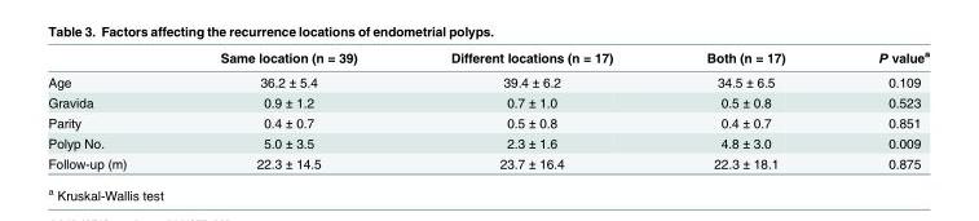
<table><thead><tr><td></td><td>Same location (n = 39)</td><td>Different locations (n = 17)</td><td>Both (n = 17)</td><td>P value<sup>a</sup></td></tr></thead><tbody><tr><td>Age</td><td>36.2 ± 5.4</td><td>39.4 ± 6.2</td><td>34.5 ± 6.5</td><td>0.109</td></tr><tr><td>Gravida</td><td>0.9 ± 1.2</td><td>0.7 ± 1.0</td><td>0.5 ± 0.8</td><td>0.523</td></tr><tr><td>Parity</td><td>0.4 ± 0.7</td><td>0.5 ± 0.8</td><td>0.4 ± 0.7</td><td>0.851</td></tr><tr><td>Polyp No.</td><td>5.0 ± 3.5</td><td>2.3 ± 1.6</td><td>4.8 ± 3.0</td><td>0.009</td></tr><tr><td>Follow-up (m)</td><td>22.3 ± 14.5</td><td>23.7 ± 16.4</td><td>22.3 ± 18.1</td><td>0.875</td></tr></tbody></table>